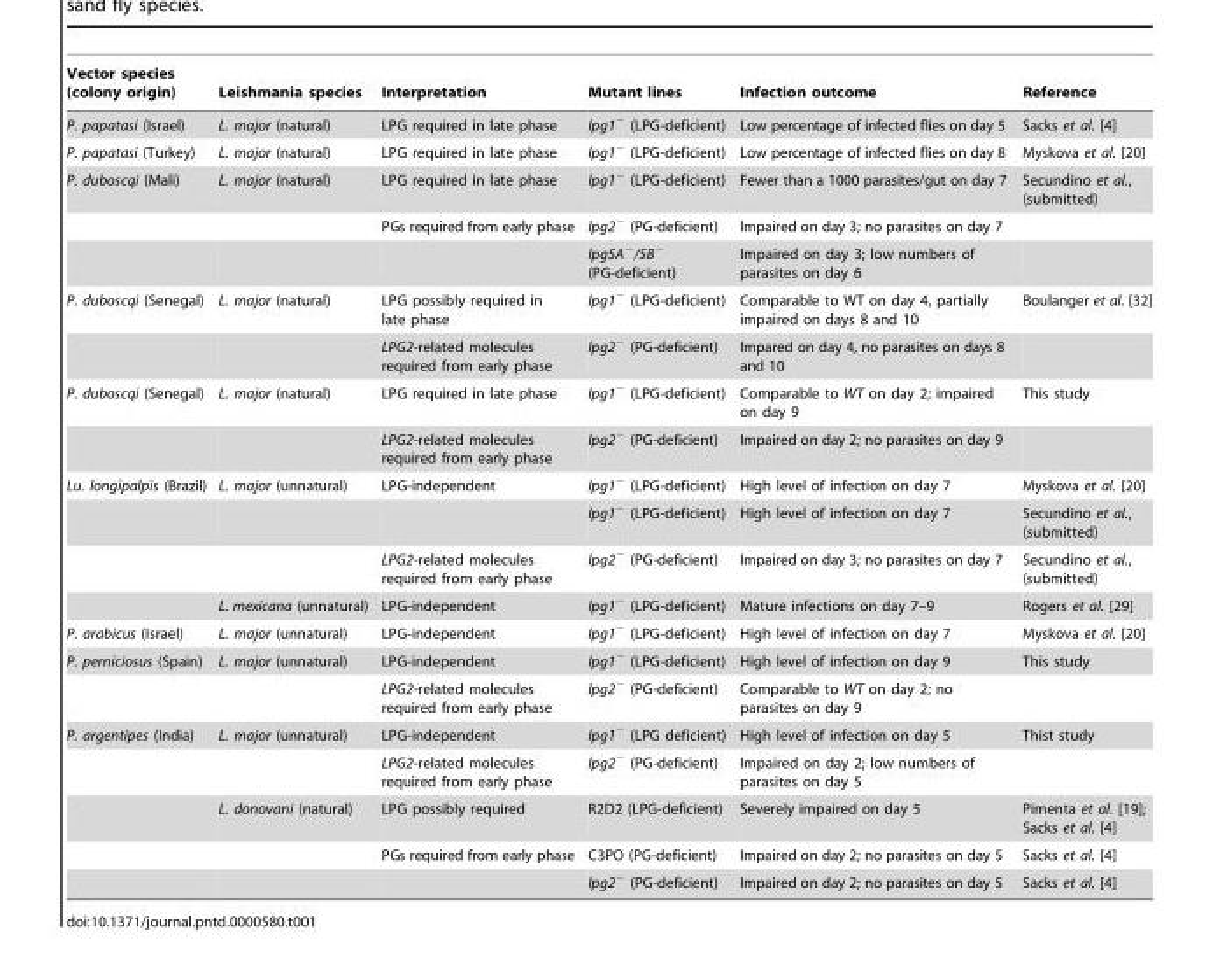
<table><thead><tr><td>Vector species (colony origin)</td><td>Leishmania species</td><td>Interpretation</td><td>Mutant lines</td><td>Infection outcome</td><td>Reference</td></tr></thead><tbody><tr><td>P. papatasi (Israel)</td><td>L. major (natural)</td><td>LPG required in late phase</td><td>lpg1<sup>−</sup> (LPG-deficient)</td><td>Low percentage of infected flies on day 5</td><td>Sacks et al. [4]</td></tr><tr><td>P. papatasi (Turkey)</td><td>L. major (natural)</td><td>LPG required in late phase</td><td>lpg1<sup>−</sup> (LPG-deficient)</td><td>Low percentage of infected flies on day 8</td><td>Myskova et al. [20]</td></tr><tr><td rowspan="3">P. duboscqi (Mali)</td><td>L. major (natural)</td><td>LPG required in late phase</td><td>lpg1<sup>−</sup> (LPG-deficient)</td><td>Fewer than a 1000 parasites/gut on day 7</td><td>Secundino et al., (submitted)</td></tr><tr><td></td><td>PGs required from early phase</td><td>lpg2<sup>−</sup> (PG-deficient)</td><td>Impaired on day 3; no parasites on day 7</td><td></td></tr><tr><td></td><td></td><td>lpg5A<sup>−</sup>/5B<sup>−</sup> (PG-deficient)</td><td>Impaired on day 3; low numbers of parasites on day 6</td><td></td></tr><tr><td rowspan="2">P. duboscqi (Senegal)</td><td>L. major (natural)</td><td>LPG possibly required in late phase</td><td>lpg1<sup>−</sup> (LPG-deficient)</td><td>Comparable to WT on day 4, partially impaired on days 8 and 10</td><td>Boulanger et al. [32]</td></tr><tr><td></td><td>LPG2-related molecules required from early phase</td><td>lpg2<sup>−</sup> (PG-deficient)</td><td>Impared on day 4, no parasites on days 8 and 10</td><td></td></tr><tr><td rowspan="2">P. duboscqi (Senegal)</td><td>L. major (natural)</td><td>LPG required in late phase</td><td>lpg1<sup>−</sup> (LPG-deficient)</td><td>Comparable to WT on day 2; impaired on day 9</td><td>This study</td></tr><tr><td></td><td>LPG2-related molecules required from early phase</td><td>lpg2<sup>−</sup> (PG-deficient)</td><td>Impaired on day 2; no parasites on day 9</td><td></td></tr><tr><td rowspan="4">Lu. longipalpis (Brazil)</td><td>L. major (unnatural)</td><td>LPG-independent</td><td>lpg1<sup>−</sup> (LPG-deficient)</td><td>High level of infection on day 7</td><td>Myskova et al. [20]</td></tr><tr><td></td><td></td><td>lpg1<sup>−</sup> (LPG-deficient)</td><td>High level of infection on day 7</td><td>Secundino et al., (submitted)</td></tr><tr><td></td><td>LPG2-related molecules required from early phase</td><td>lpg2<sup>−</sup> (PG-deficient)</td><td>Impaired on day 3; no parasites on day 7</td><td>Secundino et al., (submitted)</td></tr><tr><td>L. mexicana (unnatural)</td><td>LPG-independent</td><td>lpg1<sup>−</sup> (LPG-deficient)</td><td>Mature infections on day 7–9</td><td>Rogers et al. [29]</td></tr><tr><td>P. arabicus (Israel)</td><td>L. major (unnatural)</td><td>LPG-independent</td><td>lpg1<sup>−</sup> (LPG-deficient)</td><td>High level of infection on day 7</td><td>Myskova et al. [20]</td></tr><tr><td rowspan="2">P. perniciosus (Spain)</td><td>L. major (unnatural)</td><td>LPG-independent</td><td>lpg1<sup>−</sup> (LPG-deficient)</td><td>High level of infection on day 9</td><td>This study</td></tr><tr><td></td><td>LPG2-related molecules required from early phase</td><td>lpg2<sup>−</sup> (PG-deficient)</td><td>Comparable to WT on day 2; no parasites on day 9</td><td></td></tr><tr><td rowspan="5">P. argentipes (India)</td><td>L. major (unnatural)</td><td>LPG-independent</td><td>lpg1<sup>−</sup> (LPG deficient)</td><td>High level of infection on day 5</td><td>Thist study</td></tr><tr><td></td><td>LPG2-related molecules required from early phase</td><td>lpg2<sup>−</sup> (PG-deficient)</td><td>Impaired on day 2; low numbers of parasites on day 5</td><td></td></tr><tr><td>L. donovani (natural)</td><td>LPG possibly required</td><td>R2D2 (LPG-deficient)</td><td>Severely impaired on day 5</td><td>Pimenta et al. [19]; Sacks et al. [4]</td></tr><tr><td></td><td>PGs required from early phase</td><td>C3PO (PG-deficient)</td><td>Impaired on day 2; no parasites on day 5</td><td>Sacks et al. [4]</td></tr><tr><td></td><td></td><td>lpg2<sup>−</sup> (PG-deficient)</td><td>Impaired on day 2; no parasites on day 5</td><td>Sacks et al. [4]</td></tr></tbody></table>